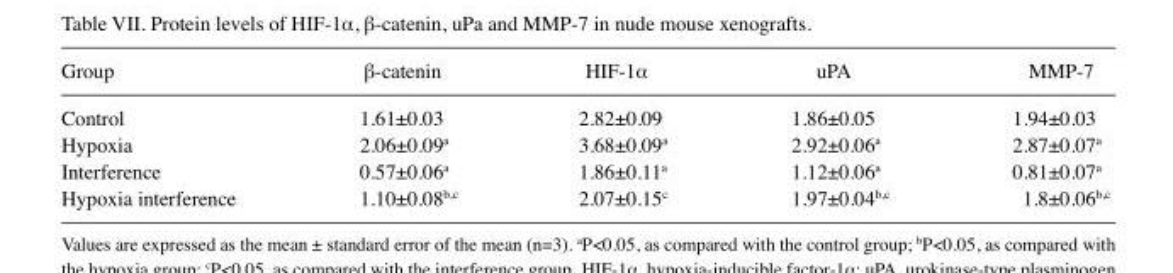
<table><thead><tr><td>Group</td><td>β-catenin</td><td>HIF-1α</td><td>uPA</td><td>MMP-7</td></tr></thead><tbody><tr><td>Control</td><td>1.61±0.03</td><td>2.82±0.09</td><td>1.86±0.05</td><td>1.94±0.03</td></tr><tr><td>Hypoxia</td><td>2.06±0.09<sup>a</sup></td><td>3.68±0.09<sup>a</sup></td><td>2.92±0.06<sup>a</sup></td><td>2.87±0.07<sup>a</sup></td></tr><tr><td>Interference</td><td>0.57±0.06<sup>a</sup></td><td>1.86±0.11<sup>a</sup></td><td>1.12±0.06<sup>a</sup></td><td>0.81±0.07<sup>a</sup></td></tr><tr><td>Hypoxia interference</td><td>1.10±0.08<sup>b</sup>,<sup>c</sup></td><td>2.07±0.15<sup>c</sup></td><td>1.97±0.04<sup>b</sup>,<sup>c</sup></td><td>1.8±0.06<sup>b</sup>,<sup>c</sup></td></tr></tbody></table>